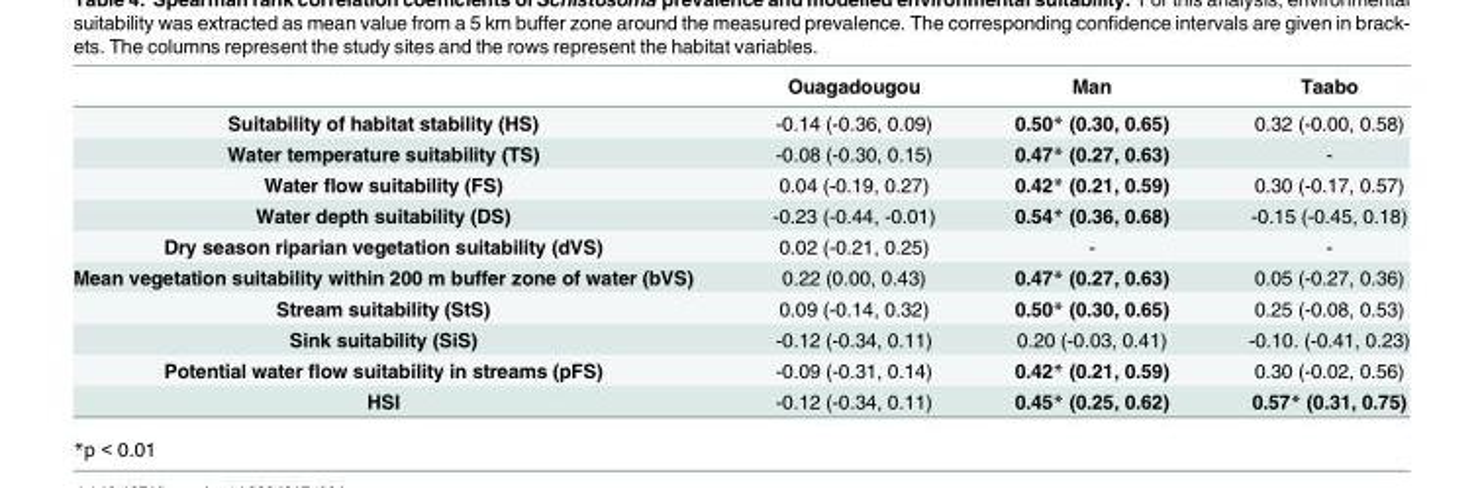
<table><thead><tr><td></td><td>Ouagadougou</td><td>Man</td><td>Taabo</td></tr></thead><tbody><tr><td>Suitability of habitat stability (HS)</td><td>-0.14 (-0.36, 0.09)</td><td>0.50* (0.30, 0.65)</td><td>0.32 (-0.00, 0.58)</td></tr><tr><td>Water temperature suitability (TS)</td><td>-0.08 (-0.30, 0.15)</td><td>0.47* (0.27, 0.63)</td><td>-</td></tr><tr><td>Water flow suitability (FS)</td><td>0.04 (-0.19, 0.27)</td><td>0.42* (0.21, 0.59)</td><td>0.30 (-0.17, 0.57)</td></tr><tr><td>Water depth suitability (DS)</td><td>-0.23 (-0.44, -0.01)</td><td>0.54* (0.36, 0.68)</td><td>-0.15 (-0.45, 0.18)</td></tr><tr><td>Dry season riparian vegetation suitability (dVS)</td><td>0.02 (-0.21, 0.25)</td><td>-</td><td>-</td></tr><tr><td>Mean vegetation suitability within 200 m buffer zone of water (bVS)</td><td>0.22 (0.00, 0.43)</td><td>0.47* (0.27, 0.63)</td><td>0.05 (-0.27, 0.36)</td></tr><tr><td>Stream suitability (StS)</td><td>0.09 (-0.14, 0.32)</td><td>0.50* (0.30, 0.65)</td><td>0.25 (-0.08, 0.53)</td></tr><tr><td>Sink suitability (SiS)</td><td>-0.12 (-0.34, 0.11)</td><td>0.20 (-0.03, 0.41)</td><td>-0.10. (-0.41, 0.23)</td></tr><tr><td>Potential water flow suitability in streams (pFS)</td><td>-0.09 (-0.31, 0.14)</td><td>0.42* (0.21, 0.59)</td><td>0.30 (-0.02, 0.56)</td></tr><tr><td>HSI</td><td>-0.12 (-0.34, 0.11)</td><td>0.45* (0.25, 0.62)</td><td>0.57* (0.31, 0.75)</td></tr></tbody></table>